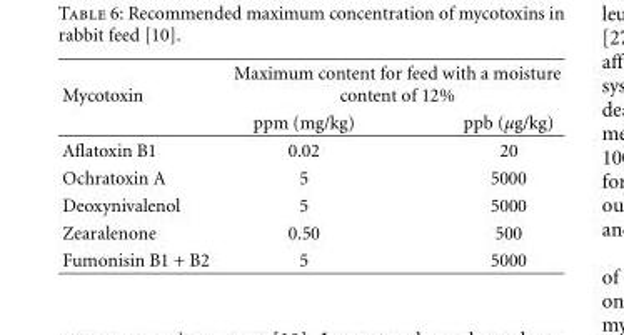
<table><thead><tr><td rowspan="2">Mycotoxin</td><td colspan="2">Maximum content for feed with a moisture content of 12%</td></tr><tr><td>ppm (mg/kg)</td><td>ppb (µg/kg)</td></tr></thead><tbody><tr><td>Aflatoxin B1</td><td>0.02</td><td>20</td></tr><tr><td>Ochratoxin A</td><td>5</td><td>5000</td></tr><tr><td>Deoxynivalenol</td><td>5</td><td>5000</td></tr><tr><td>Zearalenone</td><td>0.50</td><td>500</td></tr><tr><td>Fumonisin B1 + B2</td><td>5</td><td>5000</td></tr></tbody></table>